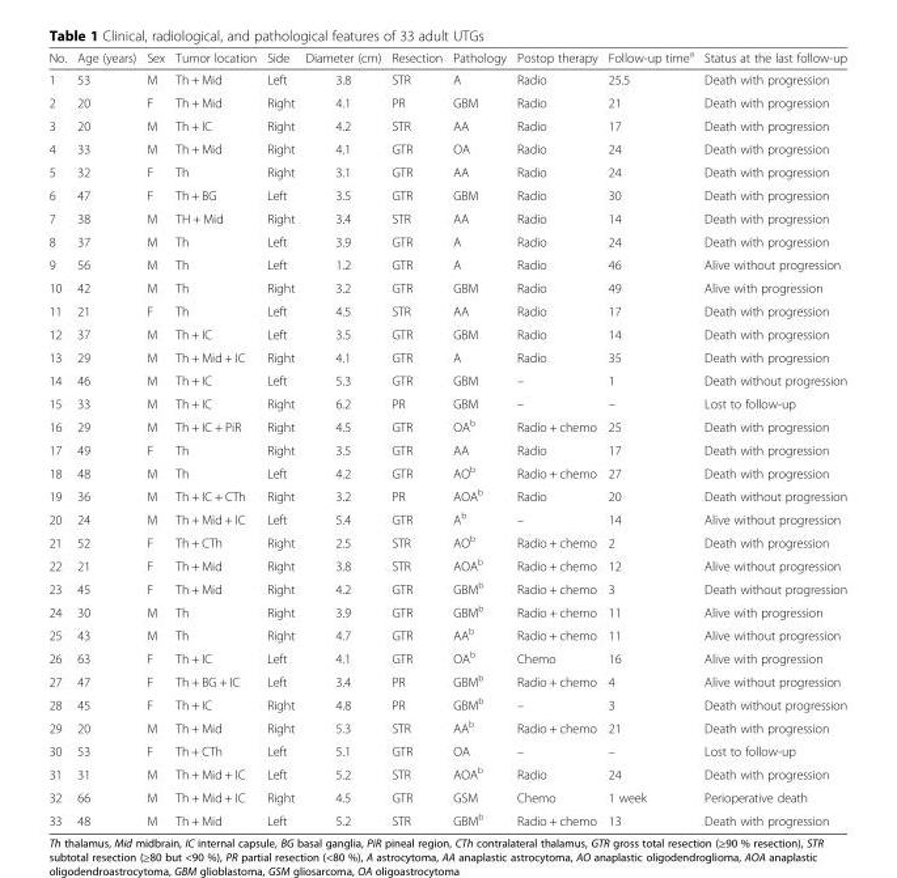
<table><thead><tr><td>No.</td><td>Age (years)</td><td>Sex</td><td>Tumor location</td><td>Side</td><td>Diameter (cm)</td><td>Resection</td><td>Pathology</td><td>Postop therapy</td><td>Follow-up time<sup>a</sup></td><td>Status at the last follow-up</td></tr></thead><tbody><tr><td>1</td><td>53</td><td>M</td><td>Th + Mid</td><td>Left</td><td>3.8</td><td>STR</td><td>A</td><td>Radio</td><td>25.5</td><td>Death with progression</td></tr><tr><td>2</td><td>20</td><td>F</td><td>Th + Mid</td><td>Right</td><td>4.1</td><td>PR</td><td>GBM</td><td>Radio</td><td>21</td><td>Death with progression</td></tr><tr><td>3</td><td>20</td><td>M</td><td>Th + IC</td><td>Right</td><td>4.2</td><td>STR</td><td>AA</td><td>Radio</td><td>17</td><td>Death with progression</td></tr><tr><td>4</td><td>33</td><td>M</td><td>Th + Mid</td><td>Right</td><td>4.1</td><td>GTR</td><td>OA</td><td>Radio</td><td>24</td><td>Death with progression</td></tr><tr><td>5</td><td>32</td><td>F</td><td>Th</td><td>Right</td><td>3.1</td><td>GTR</td><td>AA</td><td>Radio</td><td>24</td><td>Death with progression</td></tr><tr><td>6</td><td>47</td><td>F</td><td>Th + BG</td><td>Left</td><td>3.5</td><td>GTR</td><td>GBM</td><td>Radio</td><td>30</td><td>Death with progression</td></tr><tr><td>7</td><td>38</td><td>M</td><td>TH + Mid</td><td>Right</td><td>3.4</td><td>STR</td><td>AA</td><td>Radio</td><td>14</td><td>Death with progression</td></tr><tr><td>8</td><td>37</td><td>M</td><td>Th</td><td>Left</td><td>3.9</td><td>GTR</td><td>A</td><td>Radio</td><td>24</td><td>Death with progression</td></tr><tr><td>9</td><td>56</td><td>M</td><td>Th</td><td>Left</td><td>1.2</td><td>GTR</td><td>A</td><td>Radio</td><td>46</td><td>Alive without progression</td></tr><tr><td>10</td><td>42</td><td>M</td><td>Th</td><td>Right</td><td>3.2</td><td>GTR</td><td>GBM</td><td>Radio</td><td>49</td><td>Alive with progression</td></tr><tr><td>11</td><td>21</td><td>F</td><td>Th</td><td>Left</td><td>4.5</td><td>STR</td><td>AA</td><td>Radio</td><td>17</td><td>Death with progression</td></tr><tr><td>12</td><td>37</td><td>M</td><td>Th + IC</td><td>Left</td><td>3.5</td><td>GTR</td><td>GBM</td><td>Radio</td><td>14</td><td>Death with progression</td></tr><tr><td>13</td><td>29</td><td>M</td><td>Th + Mid + IC</td><td>Right</td><td>4.1</td><td>GTR</td><td>A</td><td>Radio</td><td>35</td><td>Death with progression</td></tr><tr><td>14</td><td>46</td><td>M</td><td>Th + IC</td><td>Left</td><td>5.3</td><td>GTR</td><td>GBM</td><td>–</td><td>1</td><td>Death without progression</td></tr><tr><td>15</td><td>33</td><td>M</td><td>Th + IC</td><td>Right</td><td>6.2</td><td>PR</td><td>GBM</td><td>–</td><td>–</td><td>Lost to follow-up</td></tr><tr><td>16</td><td>29</td><td>M</td><td>Th + IC + PiR</td><td>Right</td><td>4.5</td><td>GTR</td><td>OA<sup>b</sup></td><td>Radio + chemo</td><td>25</td><td>Death with progression</td></tr><tr><td>17</td><td>49</td><td>F</td><td>Th</td><td>Right</td><td>3.5</td><td>GTR</td><td>AA</td><td>Radio</td><td>17</td><td>Death with progression</td></tr><tr><td>18</td><td>48</td><td>M</td><td>Th</td><td>Left</td><td>4.2</td><td>GTR</td><td>AO<sup>b</sup></td><td>Radio + chemo</td><td>27</td><td>Death with progression</td></tr><tr><td>19</td><td>36</td><td>M</td><td>Th + IC + CTh</td><td>Right</td><td>3.2</td><td>PR</td><td>AOA<sup>b</sup></td><td>Radio</td><td>20</td><td>Death without progression</td></tr><tr><td>20</td><td>24</td><td>M</td><td>Th + Mid + IC</td><td>Left</td><td>5.4</td><td>GTR</td><td>A<sup>b</sup></td><td>–</td><td>14</td><td>Alive without progression</td></tr><tr><td>21</td><td>52</td><td>F</td><td>Th + CTh</td><td>Right</td><td>2.5</td><td>STR</td><td>AO<sup>b</sup></td><td>Radio + chemo</td><td>2</td><td>Death with progression</td></tr><tr><td>22</td><td>21</td><td>F</td><td>Th + Mid</td><td>Right</td><td>3.8</td><td>STR</td><td>AOA<sup>b</sup></td><td>Radio + chemo</td><td>12</td><td>Alive without progression</td></tr><tr><td>23</td><td>45</td><td>F</td><td>Th + Mid</td><td>Right</td><td>4.2</td><td>GTR</td><td>GBM<sup>b</sup></td><td>Radio + chemo</td><td>3</td><td>Death without progression</td></tr><tr><td>24</td><td>30</td><td>M</td><td>Th</td><td>Right</td><td>3.9</td><td>GTR</td><td>GBM<sup>b</sup></td><td>Radio + chemo</td><td>11</td><td>Alive with progression</td></tr><tr><td>25</td><td>43</td><td>M</td><td>Th</td><td>Right</td><td>4.7</td><td>GTR</td><td>AA<sup>b</sup></td><td>Radio + chemo</td><td>11</td><td>Alive without progression</td></tr><tr><td>26</td><td>63</td><td>F</td><td>Th + IC</td><td>Left</td><td>4.1</td><td>GTR</td><td>OA<sup>b</sup></td><td>Chemo</td><td>16</td><td>Alive with progression</td></tr><tr><td>27</td><td>47</td><td>F</td><td>Th + BG + IC</td><td>Left</td><td>3.4</td><td>PR</td><td>GBM<sup>b</sup></td><td>Radio + chemo</td><td>4</td><td>Alive without progression</td></tr><tr><td>28</td><td>45</td><td>F</td><td>Th + IC</td><td>Right</td><td>4.8</td><td>PR</td><td>GBM<sup>b</sup></td><td>–</td><td>3</td><td>Death without progression</td></tr><tr><td>29</td><td>20</td><td>M</td><td>Th + Mid</td><td>Right</td><td>5.3</td><td>STR</td><td>AA<sup>b</sup></td><td>Radio + chemo</td><td>21</td><td>Death with progression</td></tr><tr><td>30</td><td>53</td><td>F</td><td>Th + CTh</td><td>Left</td><td>5.1</td><td>GTR</td><td>OA</td><td>–</td><td>–</td><td>Lost to follow-up</td></tr><tr><td>31</td><td>31</td><td>M</td><td>Th + Mid + IC</td><td>Left</td><td>5.2</td><td>STR</td><td>AOA<sup>b</sup></td><td>Radio</td><td>24</td><td>Death with progression</td></tr><tr><td>32</td><td>66</td><td>M</td><td>Th + Mid + IC</td><td>Right</td><td>4.5</td><td>GTR</td><td>GSM</td><td>Chemo</td><td>1 week</td><td>Perioperative death</td></tr><tr><td>33</td><td>48</td><td>M</td><td>Th + Mid</td><td>Left</td><td>5.2</td><td>STR</td><td>GBM<sup>b</sup></td><td>Radio + chemo</td><td>13</td><td>Death with progression</td></tr></tbody></table>